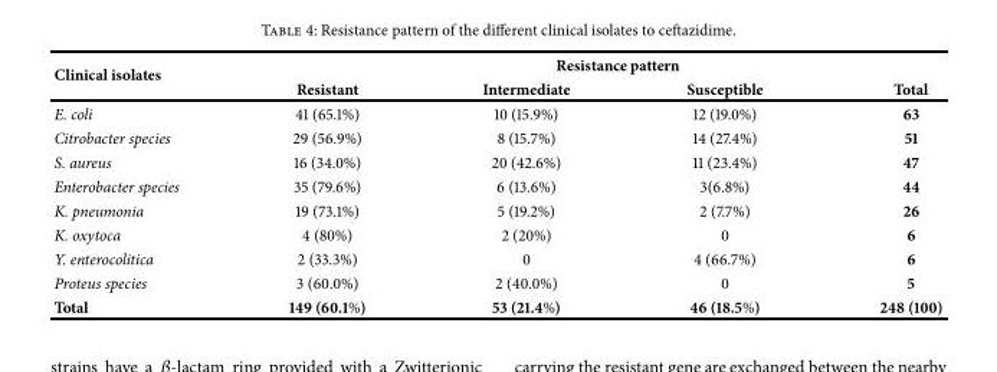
<table><thead><tr><td rowspan="2">Clinical isolates</td><td colspan="4">Resistance pattern</td></tr><tr><td>Resistant</td><td>Intermediate</td><td>Susceptible</td><td>Total</td></tr></thead><tbody><tr><td>E. coli</td><td>41 (65.1%)</td><td>10 (15.9%)</td><td>12 (19.0%)</td><td>63</td></tr><tr><td>Citrobacter species</td><td>29 (56.9%)</td><td>8 (15.7%)</td><td>14 (27.4%)</td><td>51</td></tr><tr><td>S. aureus</td><td>16 (34.0%)</td><td>20 (42.6%)</td><td>11 (23.4%)</td><td>47</td></tr><tr><td>Enterobacter species</td><td>35 (79.6%)</td><td>6 (13.6%)</td><td>3(6.8%)</td><td>44</td></tr><tr><td>K. pneumonia</td><td>19 (73.1%)</td><td>5 (19.2%)</td><td>2 (7.7%)</td><td>26</td></tr><tr><td>K. oxytoca</td><td>4 (80%)</td><td>2 (20%)</td><td>0</td><td>6</td></tr><tr><td>Y. enterocolitica</td><td>2 (33.3%)</td><td>0</td><td>4 (66.7%)</td><td>6</td></tr><tr><td>Proteus species</td><td>3 (60.0%)</td><td>2 (40.0%)</td><td>0</td><td>5</td></tr><tr><td>Total</td><td>149 (60.1%)</td><td>53 (21.4%)</td><td>46 (18.5%)</td><td>248 (100)</td></tr></tbody></table>